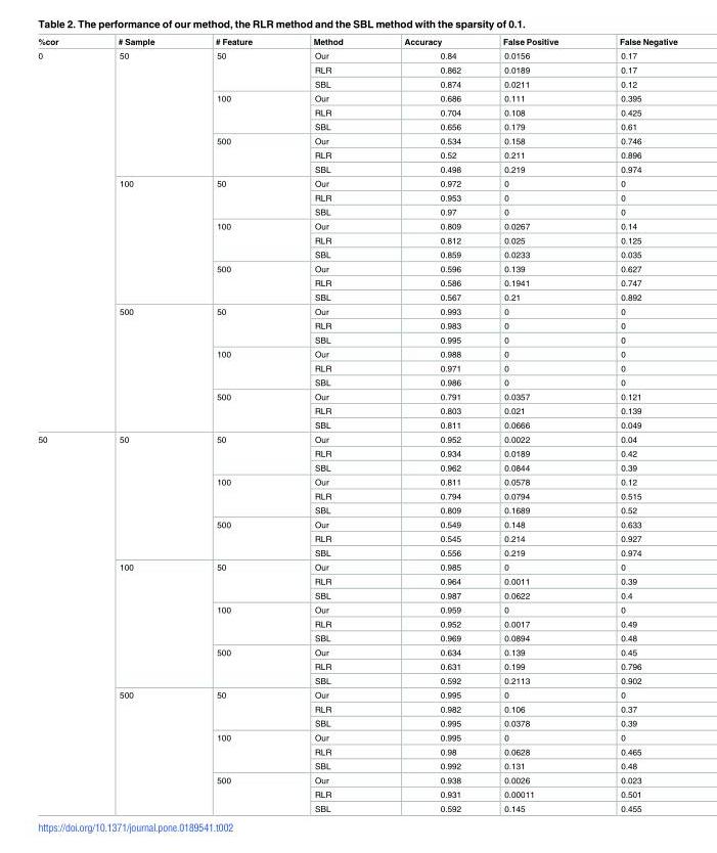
<table><thead><tr><td>%cor</td><td># Sample</td><td># Feature</td><td>Method</td><td>Accuracy</td><td>False Positive</td><td>False Negative</td></tr></thead><tbody><tr><td rowspan="27">0</td><td rowspan="9">50</td><td rowspan="3">50</td><td>Our</td><td>0.84</td><td>0.0156</td><td>0.17</td></tr><tr><td>RLR</td><td>0.862</td><td>0.0189</td><td>0.17</td></tr><tr><td>SBL</td><td>0.874</td><td>0.0211</td><td>0.12</td></tr><tr><td rowspan="3">100</td><td>Our</td><td>0.686</td><td>0.111</td><td>0.395</td></tr><tr><td>RLR</td><td>0.704</td><td>0.108</td><td>0.425</td></tr><tr><td>SBL</td><td>0.656</td><td>0.179</td><td>0.61</td></tr><tr><td rowspan="3">500</td><td>Our</td><td>0.534</td><td>0.158</td><td>0.746</td></tr><tr><td>RLR</td><td>0.52</td><td>0.211</td><td>0.896</td></tr><tr><td>SBL</td><td>0.498</td><td>0.219</td><td>0.974</td></tr><tr><td rowspan="9">100</td><td rowspan="3">50</td><td>Our</td><td>0.972</td><td>0</td><td>0</td></tr><tr><td>RLR</td><td>0.953</td><td>0</td><td>0</td></tr><tr><td>SBL</td><td>0.97</td><td>0</td><td>0</td></tr><tr><td rowspan="3">100</td><td>Our</td><td>0.809</td><td>0.0267</td><td>0.14</td></tr><tr><td>RLR</td><td>0.812</td><td>0.025</td><td>0.125</td></tr><tr><td>SBL</td><td>0.859</td><td>0.0233</td><td>0.035</td></tr><tr><td rowspan="3">500</td><td>Our</td><td>0.596</td><td>0.139</td><td>0.627</td></tr><tr><td>RLR</td><td>0.586</td><td>0.1941</td><td>0.747</td></tr><tr><td>SBL</td><td>0.567</td><td>0.21</td><td>0.892</td></tr><tr><td rowspan="9">500</td><td rowspan="3">50</td><td>Our</td><td>0.993</td><td>0</td><td>0</td></tr><tr><td>RLR</td><td>0.983</td><td>0</td><td>0</td></tr><tr><td>SBL</td><td>0.995</td><td>0</td><td>0</td></tr><tr><td rowspan="3">100</td><td>Our</td><td>0.988</td><td>0</td><td>0</td></tr><tr><td>RLR</td><td>0.971</td><td>0</td><td>0</td></tr><tr><td>SBL</td><td>0.986</td><td>0</td><td>0</td></tr><tr><td rowspan="3">500</td><td>Our</td><td>0.791</td><td>0.0357</td><td>0.121</td></tr><tr><td>RLR</td><td>0.803</td><td>0.021</td><td>0.139</td></tr><tr><td>SBL</td><td>0.811</td><td>0.0666</td><td>0.049</td></tr><tr><td rowspan="27">50</td><td rowspan="9">50</td><td rowspan="3">50</td><td>Our</td><td>0.952</td><td>0.0022</td><td>0.04</td></tr><tr><td>RLR</td><td>0.934</td><td>0.0189</td><td>0.42</td></tr><tr><td>SBL</td><td>0.962</td><td>0.0844</td><td>0.39</td></tr><tr><td rowspan="3">100</td><td>Our</td><td>0.811</td><td>0.0578</td><td>0.12</td></tr><tr><td>RLR</td><td>0.794</td><td>0.0794</td><td>0.515</td></tr><tr><td>SBL</td><td>0.809</td><td>0.1689</td><td>0.52</td></tr><tr><td rowspan="3">500</td><td>Our</td><td>0.549</td><td>0.148</td><td>0.633</td></tr><tr><td>RLR</td><td>0.545</td><td>0.214</td><td>0.927</td></tr><tr><td>SBL</td><td>0.556</td><td>0.219</td><td>0.974</td></tr><tr><td rowspan="9">100</td><td rowspan="3">50</td><td>Our</td><td>0.985</td><td>0</td><td>0</td></tr><tr><td>RLR</td><td>0.964</td><td>0.0011</td><td>0.39</td></tr><tr><td>SBL</td><td>0.987</td><td>0.0622</td><td>0.4</td></tr><tr><td rowspan="3">100</td><td>Our</td><td>0.959</td><td>0</td><td>0</td></tr><tr><td>RLR</td><td>0.952</td><td>0.0017</td><td>0.49</td></tr><tr><td>SBL</td><td>0.969</td><td>0.0894</td><td>0.48</td></tr><tr><td rowspan="3">500</td><td>Our</td><td>0.634</td><td>0.139</td><td>0.45</td></tr><tr><td>RLR</td><td>0.631</td><td>0.199</td><td>0.796</td></tr><tr><td>SBL</td><td>0.592</td><td>0.2113</td><td>0.902</td></tr><tr><td rowspan="9">500</td><td rowspan="3">50</td><td>Our</td><td>0.995</td><td>0</td><td>0</td></tr><tr><td>RLR</td><td>0.982</td><td>0.106</td><td>0.37</td></tr><tr><td>SBL</td><td>0.995</td><td>0.0378</td><td>0.39</td></tr><tr><td rowspan="3">100</td><td>Our</td><td>0.995</td><td>0</td><td>0</td></tr><tr><td>RLR</td><td>0.98</td><td>0.0628</td><td>0.465</td></tr><tr><td>SBL</td><td>0.992</td><td>0.131</td><td>0.48</td></tr><tr><td rowspan="3">500</td><td>Our</td><td>0.938</td><td>0.0026</td><td>0.023</td></tr><tr><td>RLR</td><td>0.931</td><td>0.00011</td><td>0.501</td></tr><tr><td>SBL</td><td>0.592</td><td>0.145</td><td>0.455</td></tr></tbody></table>